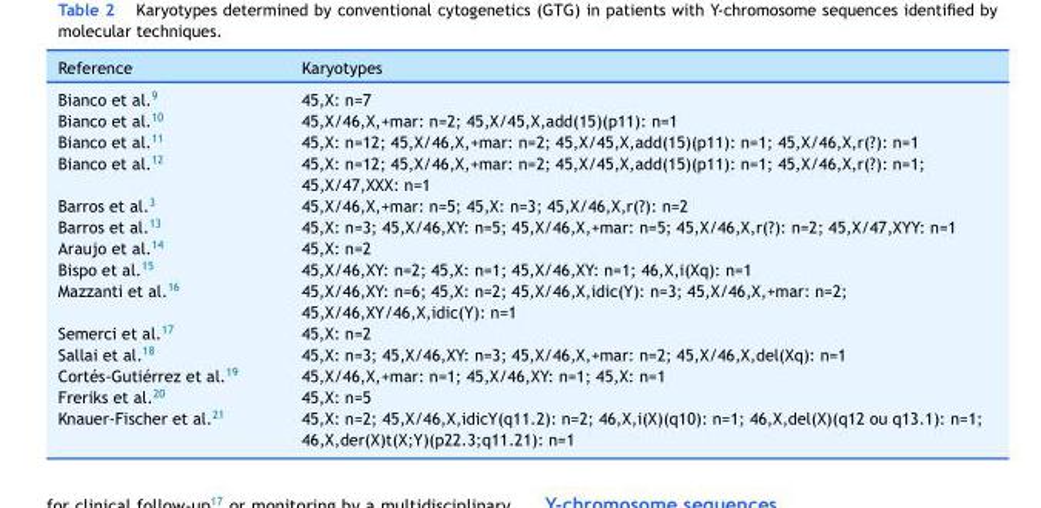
<table><thead><tr><td>Reference</td><td>Karyotypes</td></tr></thead><tbody><tr><td>Bianco et al.9</td><td>45,X: n=7</td></tr><tr><td>Bianco et al.10</td><td>45,X/46,X,+mar: n=2; 45,X/45,X,add(15)(p11): n=1</td></tr><tr><td>Bianco et al.11</td><td>45,X: n=12; 45,X/46,X,+mar: n=2; 45,X/45,X,add(15)(p11): n=1; 45,X/46,X,r(?): n=1</td></tr><tr><td>Bianco et al.12</td><td>45,X: n=12; 45,X/46,X,+mar: n=2; 45,X/45,X,add(15)(p11): n=1; 45,X/46,X,r(?): n=1; 45,X/47,XXX: n=1</td></tr><tr><td>Barros et al.3</td><td>45,X/46,X,+mar: n=5; 45,X: n=3; 45,X/46,X,r(?): n=2</td></tr><tr><td>Barros et al.13</td><td>45,X: n=3; 45,X/46,XY: n=5; 45,X/46,X,+mar: n=5; 45,X/46,X,r(?): n=2; 45,X/47,XYY: n=1</td></tr><tr><td>Araujo et al.14</td><td>45,X: n=2</td></tr><tr><td>Bispo et al.15</td><td>45,X/46,XY: n=2; 45,X: n=1; 45,X/46,XY: n=1; 46,X,i(Xq): n=1</td></tr><tr><td>Mazzanti et al.16</td><td>45,X/46,XY: n=6; 45,X: n=2; 45,X/46,X,idic(Y): n=3; 45,X/46,X,+mar: n=2; 45,X/46,XY/46,X,idic(Y): n=1</td></tr><tr><td>Semerci et al.17</td><td>45,X: n=2</td></tr><tr><td>Sallai et al.18</td><td>45,X: n=3; 45,X/46,XY: n=3; 45,X/46,X,+mar: n=2; 45,X/46,X,del(Xq): n=1</td></tr><tr><td>Cortés-Gutiérrez et al.19</td><td>45,X/46,X,+mar: n=1; 45,X/46,XY: n=1; 45,X: n=1</td></tr><tr><td>Freriks et al.20</td><td>45,X: n=5</td></tr><tr><td>Knauer-Fischer et al.21</td><td>45,X: n=2; 45,X/46,X,idicY(q11.2): n=2; 46,X,i(X)(q10): n=1; 46,X,del(X)(q12 ou q13.1): n=1; 46,X,der(X)t(X;Y)(p22.3;q11.21): n=1</td></tr></tbody></table>